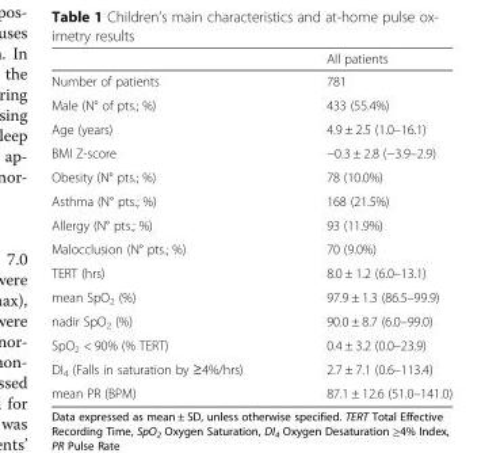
<table><thead><tr><td></td><td>All patients</td></tr></thead><tbody><tr><td>Number of patients</td><td>781</td></tr><tr><td>Male (N° of pts.; %)</td><td>433 (55.4%)</td></tr><tr><td>Age (years)</td><td>4.9 ± 2.5 (1.0–16.1)</td></tr><tr><td>BMI Z-score</td><td>−0.3 ± 2.8 (−3.9–2.9)</td></tr><tr><td>Obesity (N° pts.; %)</td><td>78 (10.0%)</td></tr><tr><td>Asthma (N° pts.; %)</td><td>168 (21.5%)</td></tr><tr><td>Allergy (N° pts.; %)</td><td>93 (11.9%)</td></tr><tr><td>Malocclusion (N° pts.; %)</td><td>70 (9.0%)</td></tr><tr><td>TERT (hrs)</td><td>8.0 ± 1.2 (6.0–13.1)</td></tr><tr><td>mean SpO<sub>2</sub> (%)</td><td>97.9 ± 1.3 (86.5–99.9)</td></tr><tr><td>nadir SpO<sub>2</sub> (%)</td><td>90.0 ± 8.7 (6.0–99.0)</td></tr><tr><td>SpO<sub>2</sub> &lt; 90% (% TERT)</td><td>0.4 ± 3.2 (0.0–23.9)</td></tr><tr><td>DI<sub>4</sub> (Falls in saturation by ≥4%/hrs)</td><td>2.7 ± 7.1 (0.6–113.4)</td></tr><tr><td>mean PR (BPM)</td><td>87.1 ± 12.6 (51.0–141.0)</td></tr></tbody></table>